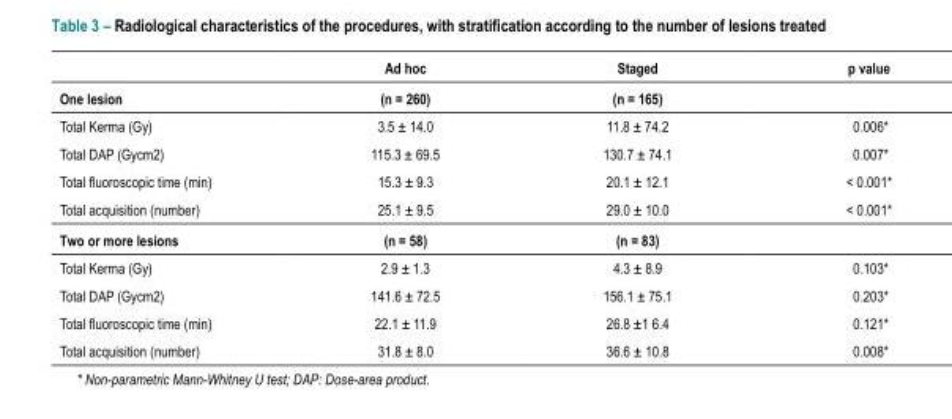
<table><thead><tr><td></td><td>Ad hoc</td><td>Staged</td><td>p value</td></tr></thead><tbody><tr><td>One lesion</td><td>(n = 260)</td><td>(n = 165)</td><td></td></tr><tr><td>Total Kerma (Gy)</td><td>3.5 ± 14.0</td><td>11.8 ± 74.2</td><td>0.006*</td></tr><tr><td>Total DAP (Gycm2)</td><td>115.3 ± 69.5</td><td>130.7 ± 74.1</td><td>0.007*</td></tr><tr><td>Total fluoroscopic time (min)</td><td>15.3 ± 9.3</td><td>20.1 ± 12.1</td><td>&lt; 0.001*</td></tr><tr><td>Total acquisition (number)</td><td>25.1 ± 9.5</td><td>29.0 ± 10.0</td><td>&lt; 0.001*</td></tr><tr><td>Two or more lesions</td><td>(n = 58)</td><td>(n = 83)</td><td></td></tr><tr><td>Total Kerma (Gy)</td><td>2.9 ± 1.3</td><td>4.3 ± 8.9</td><td>0.103*</td></tr><tr><td>Total DAP (Gycm<sup>2</sup>)</td><td>141.6 ± 72.5</td><td>156.1 ± 75.1</td><td>0.203*</td></tr><tr><td>Total fluoroscopic time (min)</td><td>22.1 ± 11.9</td><td>26.8 ±1 6.4</td><td>0.121*</td></tr><tr><td>Total acquisition (number)</td><td>31.8 ± 8.0</td><td>36.6 ± 10.8</td><td>0.008*</td></tr></tbody></table>